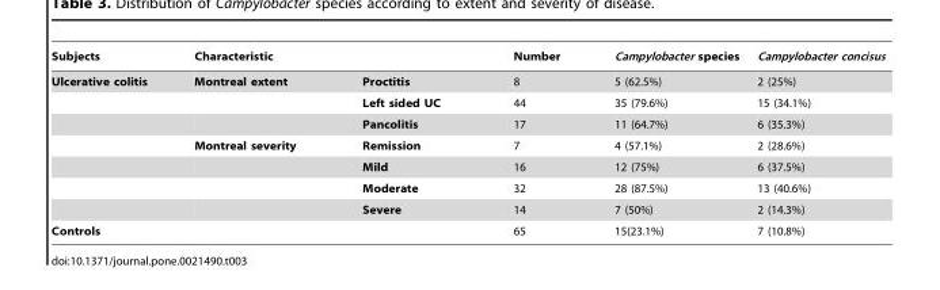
<table><thead><tr><td rowspan="2">Subjects Ulcerative colitis</td><td colspan="2">Characteristic</td><td rowspan="2">Number 8</td><td rowspan="2">Campylobacter species 5 (62.5%)</td><td rowspan="2">Campylobacter concisus 2 (25%)</td></tr><tr><td>Montreal extent</td><td>Proctitis</td></tr></thead><tbody><tr><td></td><td></td><td>Left sided UC</td><td>44</td><td>35 (79.6%)</td><td>15 (34.1%)</td></tr><tr><td></td><td></td><td>Pancolitis</td><td>17</td><td>11 (64.7%)</td><td>6 (35.3%)</td></tr><tr><td></td><td>Montreal severity</td><td>Remission</td><td>7</td><td>4 (57.1%)</td><td>2 (28.6%)</td></tr><tr><td></td><td></td><td>Mild</td><td>16</td><td>12 (75%)</td><td>6 (37.5%)</td></tr><tr><td></td><td></td><td>Moderate</td><td>32</td><td>28 (87.5%)</td><td>13 (40.6%)</td></tr><tr><td></td><td></td><td>Severe</td><td>14</td><td>7 (50%)</td><td>2 (14.3%)</td></tr><tr><td>Controls</td><td></td><td></td><td>65</td><td>15(23.1%)</td><td>7 (10.8%)</td></tr></tbody></table>